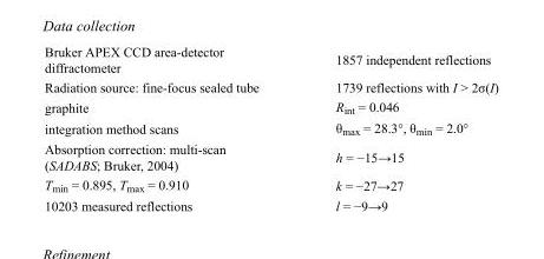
<table><tbody><tr><td>Bruker APEX CCD area-detector diffractometer</td><td>1857 independent reflections</td></tr><tr><td>Radiation source: fine-focus sealed tube</td><td>1739 reflections with I &gt; 2σ(I)</td></tr><tr><td>graphite</td><td>R<sub>int</sub> = 0.046</td></tr><tr><td>integration method scans</td><td>θ<sub>max</sub> = 28.3°, θ<sub>min</sub> = 2.0°</td></tr><tr><td>Absorption correction: multi-scan (SADABS; Bruker, 2004)</td><td>h = −15→15</td></tr><tr><td>T<sub>min</sub> = 0.895, T<sub>max</sub> = 0.910</td><td>k = −27→27</td></tr><tr><td>10203 measured reflections</td><td>l = −9→9</td></tr></tbody></table>